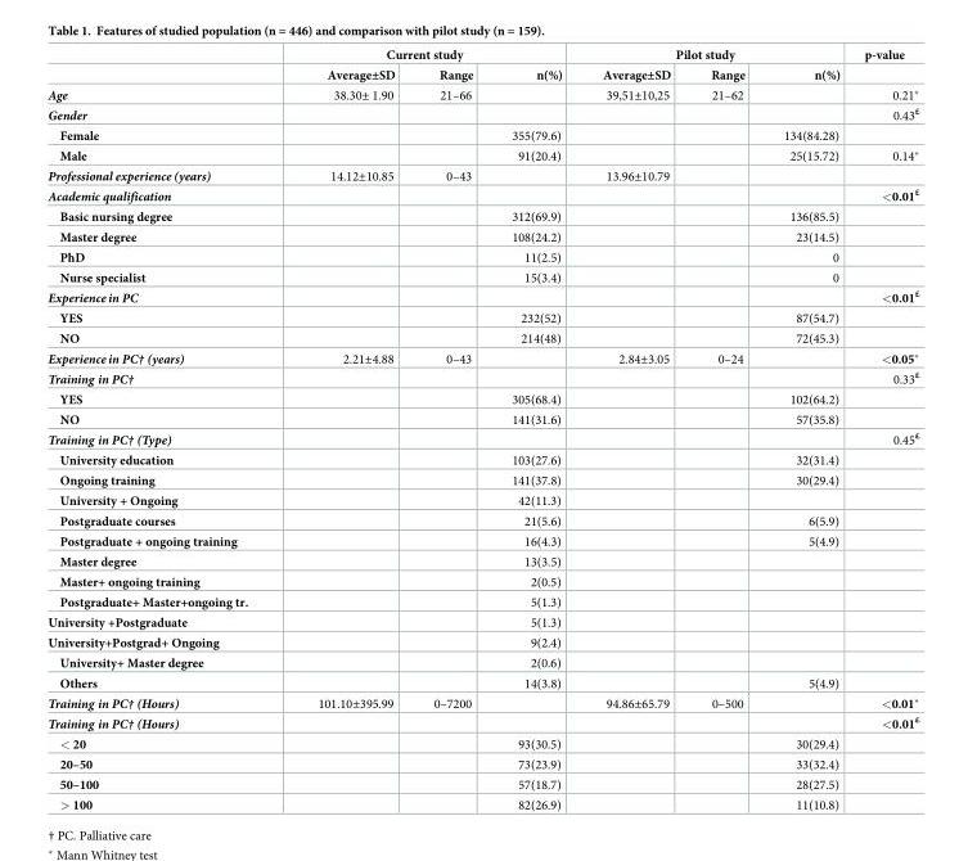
<table><thead><tr><td rowspan="2"></td><td colspan="3">Current study</td><td colspan="3">Pilot study</td><td rowspan="2">p-value</td></tr><tr><td>Average±SD</td><td>Range</td><td>n(%)</td><td>Average±SD</td><td>Range</td><td>n(%)</td></tr></thead><tbody><tr><td>Age</td><td>38.30± 1.90</td><td>21–66</td><td></td><td>39,51±10,25</td><td>21–62</td><td></td><td>0.21*</td></tr><tr><td>Gender</td><td></td><td></td><td></td><td></td><td></td><td></td><td>0.43<sup>£</sup></td></tr><tr><td>Female</td><td></td><td></td><td>355(79.6)</td><td></td><td></td><td>134(84.28)</td><td></td></tr><tr><td>Male</td><td></td><td></td><td>91(20.4)</td><td></td><td></td><td>25(15.72)</td><td>0.14*</td></tr><tr><td>Professional experience (years)</td><td>14.12±10.85</td><td>0–43</td><td></td><td>13.96±10.79</td><td></td><td></td><td></td></tr><tr><td>Academic qualification</td><td></td><td></td><td></td><td></td><td></td><td></td><td>&lt;0.01<sup>£</sup></td></tr><tr><td>Basic nursing degree</td><td></td><td></td><td>312(69.9)</td><td></td><td></td><td>136(85.5)</td><td></td></tr><tr><td>Master degree</td><td></td><td></td><td>108(24.2)</td><td></td><td></td><td>23(14.5)</td><td></td></tr><tr><td>PhD</td><td></td><td></td><td>11(2.5)</td><td></td><td></td><td>0</td><td></td></tr><tr><td>Nurse specialist</td><td></td><td></td><td>15(3.4)</td><td></td><td></td><td>0</td><td></td></tr><tr><td>Experiencein PC</td><td></td><td></td><td></td><td></td><td></td><td></td><td>&lt;0.01<sup>£</sup></td></tr><tr><td>YES</td><td></td><td></td><td>232(52)</td><td></td><td></td><td>87(54.7)</td><td></td></tr><tr><td>NO</td><td></td><td></td><td>214(48)</td><td></td><td></td><td>72(45.3)</td><td></td></tr><tr><td>Experiencein PC† (years)</td><td>2.21±4.88</td><td>0–43</td><td></td><td>2.84±3.05</td><td>0–24</td><td></td><td>&lt;0.05*</td></tr><tr><td>Training in PC†</td><td></td><td></td><td></td><td></td><td></td><td></td><td>0.33<sup>£</sup></td></tr><tr><td>YES</td><td></td><td></td><td>305(68.4)</td><td></td><td></td><td>102(64.2)</td><td></td></tr><tr><td>NO</td><td></td><td></td><td>141(31.6)</td><td></td><td></td><td>57(35.8)</td><td></td></tr><tr><td>Training in PC† (Type)</td><td></td><td></td><td></td><td></td><td></td><td></td><td>0.45<sup>£</sup></td></tr><tr><td>University education</td><td></td><td></td><td>103(27.6)</td><td></td><td></td><td>32(31.4)</td><td></td></tr><tr><td>Ongoing training</td><td></td><td></td><td>141(37.8)</td><td></td><td></td><td>30(29.4)</td><td></td></tr><tr><td>University + Ongoing</td><td></td><td></td><td>42(11.3)</td><td></td><td></td><td></td><td></td></tr><tr><td>Postgraduate courses</td><td></td><td></td><td>21(5.6)</td><td></td><td></td><td>6(5.9)</td><td></td></tr><tr><td>Postgraduate + ongoing training</td><td></td><td></td><td>16(4.3)</td><td></td><td></td><td>5(4.9)</td><td></td></tr><tr><td>Master degree</td><td></td><td></td><td>13(3.5)</td><td></td><td></td><td></td><td></td></tr><tr><td>Master+ ongoing training</td><td></td><td></td><td>2(0.5)</td><td></td><td></td><td></td><td></td></tr><tr><td>Postgraduate+ Master+ongoing tr.</td><td></td><td></td><td>5(1.3)</td><td></td><td></td><td></td><td></td></tr><tr><td>University +Postgraduate</td><td></td><td></td><td>5(1.3)</td><td></td><td></td><td></td><td></td></tr><tr><td>University+Postgrad+ Ongoing</td><td></td><td></td><td>9(2.4)</td><td></td><td></td><td></td><td></td></tr><tr><td>University+ Master degree</td><td></td><td></td><td>2(0.6)</td><td></td><td></td><td></td><td></td></tr><tr><td>Others</td><td></td><td></td><td>14(3.8)</td><td></td><td></td><td>5(4.9)</td><td></td></tr><tr><td>Training in PC† (Hours)</td><td>101.10±395.99</td><td>0–7200</td><td></td><td>94.86±65.79</td><td>0–500</td><td></td><td>&lt;0.01*</td></tr><tr><td>Training in PC† (Hours)</td><td></td><td></td><td></td><td></td><td></td><td></td><td>&lt;0.01<sup>£</sup></td></tr><tr><td>&lt; 20</td><td></td><td></td><td>93(30.5)</td><td></td><td></td><td>30(29.4)</td><td></td></tr><tr><td>20–50</td><td></td><td></td><td>73(23.9)</td><td></td><td></td><td>33(32.4)</td><td></td></tr><tr><td>50–100</td><td></td><td></td><td>57(18.7)</td><td></td><td></td><td>28(27.5)</td><td></td></tr><tr><td>&gt; 100</td><td></td><td></td><td>82(26.9)</td><td></td><td></td><td>11(10.8)</td><td></td></tr></tbody></table>